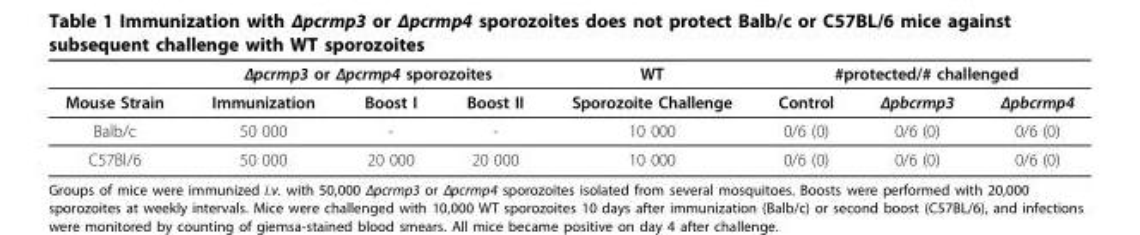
<table><thead><tr><td rowspan="2">Mouse Strain</td><td colspan="3">Δpcrmp3 or Δpcrmp4 sporozoites</td><td rowspan="2">WT Sporozoite Challenge</td><td colspan="3">#protected/# challenged</td></tr><tr><td>Immunization</td><td>Boost I</td><td>Boost II</td><td>Control</td><td>Δpbcrmp3</td><td>Δpbcrmp4</td></tr></thead><tbody><tr><td>Balb/c</td><td>50 000</td><td>-</td><td>-</td><td>10 000</td><td>0/6 (0)</td><td>0/6 (0)</td><td>0/6 (0)</td></tr><tr><td>C57Bl/6</td><td>50 000</td><td>20 000</td><td>20 000</td><td>10 000</td><td>0/6 (0)</td><td>0/6 (0)</td><td>0/6 (0)</td></tr></tbody></table>